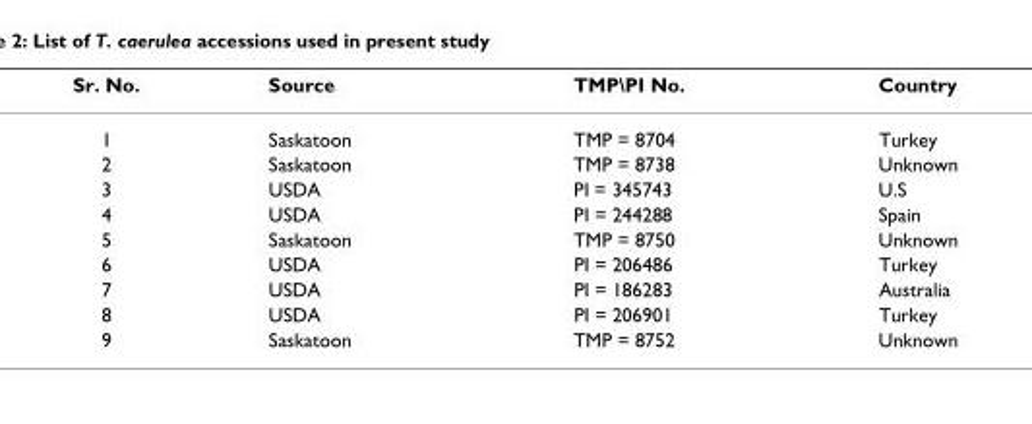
<table><thead><tr><td>Sr. No.</td><td>Source</td><td>TMP\PI No.</td><td>Country</td></tr></thead><tbody><tr><td>1</td><td>Saskatoon</td><td>TMP = 8704</td><td>Turkey</td></tr><tr><td>2</td><td>Saskatoon</td><td>TMP = 8738</td><td>Unknown</td></tr><tr><td>3</td><td>USDA</td><td>PI = 345743</td><td>U.S</td></tr><tr><td>4</td><td>USDA</td><td>PI = 244288</td><td>Spain</td></tr><tr><td>5</td><td>Saskatoon</td><td>TMP = 8750</td><td>Unknown</td></tr><tr><td>6</td><td>USDA</td><td>PI = 206486</td><td>Turkey</td></tr><tr><td>7</td><td>USDA</td><td>PI = 186283</td><td>Australia</td></tr><tr><td>8</td><td>USDA</td><td>PI = 206901</td><td>Turkey</td></tr><tr><td>9</td><td>Saskatoon</td><td>TMP = 8752</td><td>Unknown</td></tr></tbody></table>